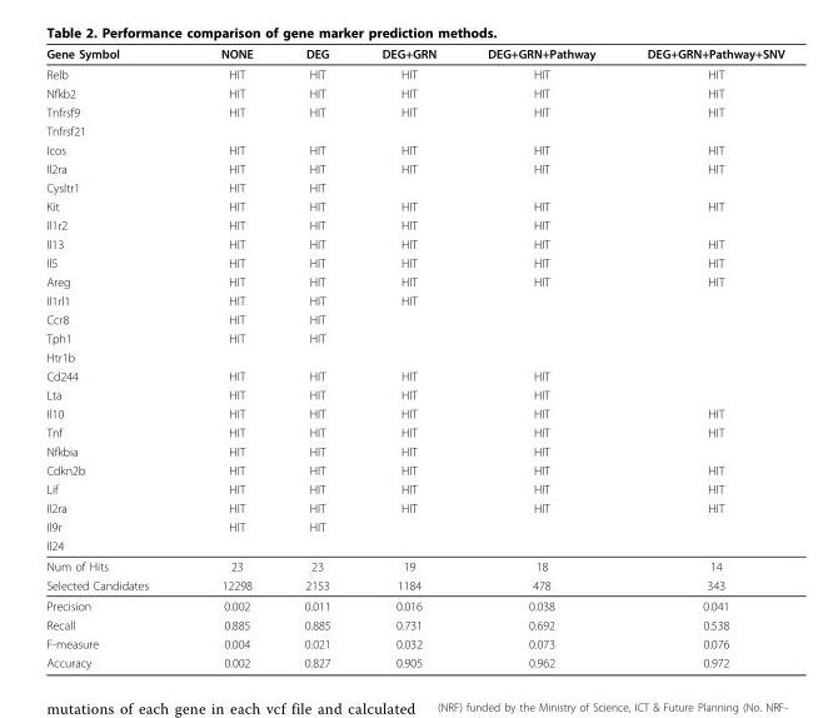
<table><thead><tr><td>Gene Symbol</td><td>NONE</td><td>DEG</td><td>DEG+GRN</td><td>DEG+GRN+Pathway</td><td>DEG+GRN+Pathway+SNV</td></tr></thead><tbody><tr><td>Relb</td><td>HIT</td><td>HIT</td><td>HIT</td><td>HIT</td><td>HIT</td></tr><tr><td>Nfkb2</td><td>HIT</td><td>HIT</td><td>HIT</td><td>HIT</td><td>HIT</td></tr><tr><td>Tnfrsf9</td><td>HIT</td><td>HIT</td><td>HIT</td><td>HIT</td><td>HIT</td></tr><tr><td colspan="6">Tnfrsf21</td></tr><tr><td>Icos</td><td>HIT</td><td>HIT</td><td>HIT</td><td>HIT</td><td>HIT</td></tr><tr><td>Il2ra</td><td>HIT</td><td>HIT</td><td>HIT</td><td>HIT</td><td>HIT</td></tr><tr><td>Cysltr1</td><td>HIT</td><td>HIT</td><td></td><td></td><td></td></tr><tr><td>Kit</td><td>HIT</td><td>HIT</td><td>HIT</td><td>HIT</td><td>HIT</td></tr><tr><td>Il1r2</td><td>HIT</td><td>HIT</td><td>HIT</td><td>HIT</td><td></td></tr><tr><td>Il13</td><td>HIT</td><td>HIT</td><td>HIT</td><td>HIT</td><td>HIT</td></tr><tr><td>Il5</td><td>HIT</td><td>HIT</td><td>HIT</td><td>HIT</td><td>HIT</td></tr><tr><td>Areg</td><td>HIT</td><td>HIT</td><td>HIT</td><td>HIT</td><td>HIT</td></tr><tr><td>Il1rl1</td><td>HIT</td><td>HIT</td><td>HIT</td><td></td><td></td></tr><tr><td>Ccr8</td><td>HIT</td><td>HIT</td><td></td><td></td><td></td></tr><tr><td>Tph1</td><td>HIT</td><td>HIT</td><td></td><td></td><td></td></tr><tr><td colspan="6">Htr1b</td></tr><tr><td>Cd244</td><td>HIT</td><td>HIT</td><td>HIT</td><td>HIT</td><td></td></tr><tr><td>Lta</td><td>HIT</td><td>HIT</td><td>HIT</td><td>HIT</td><td></td></tr><tr><td>Il10</td><td>HIT</td><td>HIT</td><td>HIT</td><td>HIT</td><td>HIT</td></tr><tr><td>Tnf</td><td>HIT</td><td>HIT</td><td>HIT</td><td>HIT</td><td>HIT</td></tr><tr><td>Nfkbia</td><td>HIT</td><td>HIT</td><td>HIT</td><td>HIT</td><td></td></tr><tr><td>Cdkn2b</td><td>HIT</td><td>HIT</td><td>HIT</td><td>HIT</td><td>HIT</td></tr><tr><td>Lif</td><td>HIT</td><td>HIT</td><td>HIT</td><td>HIT</td><td>HIT</td></tr><tr><td>Il2ra</td><td>HIT</td><td>HIT</td><td>HIT</td><td>HIT</td><td>HIT</td></tr><tr><td>Il9r</td><td>HIT</td><td>HIT</td><td></td><td></td><td></td></tr><tr><td colspan="6">Il24</td></tr><tr><td>Num of Hits</td><td>23</td><td>23</td><td>19</td><td>18</td><td>14</td></tr><tr><td>Selected Candidates</td><td>12298</td><td>2153</td><td>1184</td><td>478</td><td>343</td></tr><tr><td>Precision</td><td>0.002</td><td>0.011</td><td>0.016</td><td>0.038</td><td>0.041</td></tr><tr><td>Recall</td><td>0.885</td><td>0.885</td><td>0.731</td><td>0.692</td><td>0.538</td></tr><tr><td>F-measure</td><td>0.004</td><td>0.021</td><td>0.032</td><td>0.073</td><td>0.076</td></tr><tr><td>Accuracy</td><td>0.002</td><td>0.827</td><td>0.905</td><td>0.962</td><td>0.972</td></tr></tbody></table>